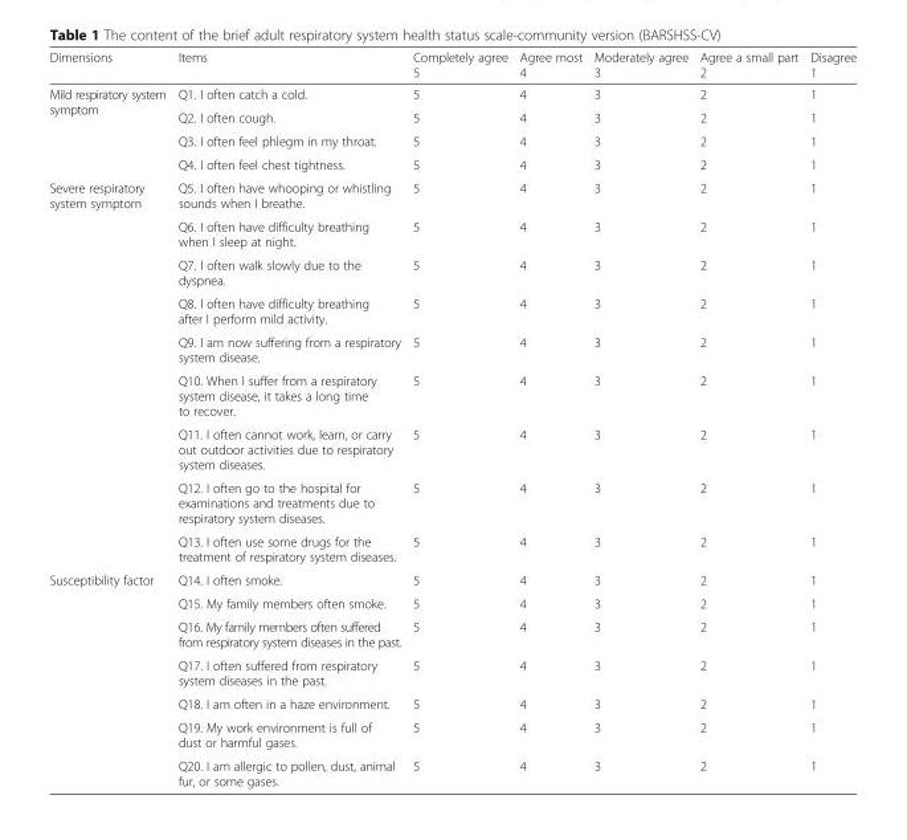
<table><thead><tr><td>Dimensions</td><td>Items</td><td>Completely agree 5</td><td>Agree most 4</td><td>Moderately agree 3</td><td>Agree a small part 2</td><td>Disagree 1</td></tr></thead><tbody><tr><td rowspan="4">Mild respiratory system symptom</td><td>Q1. I often catch a cold.</td><td>5</td><td>4</td><td>3</td><td>2</td><td>1</td></tr><tr><td>Q2. I often cough.</td><td>5</td><td>4</td><td>3</td><td>2</td><td>1</td></tr><tr><td>Q3. I often feel phlegm in my throat.</td><td>5</td><td>4</td><td>3</td><td>2</td><td>1</td></tr><tr><td>Q4. I often feel chest tightness.</td><td>5</td><td>4</td><td>3</td><td>2</td><td>1</td></tr><tr><td rowspan="9">Severe respiratory system symptom</td><td>Q5. I often have whooping or whistling sounds when I breathe.</td><td>5</td><td>4</td><td>3</td><td>2</td><td>1</td></tr><tr><td>Q6. I often have difficulty breathing when I sleep at night.</td><td>5</td><td>4</td><td>3</td><td>2</td><td>1</td></tr><tr><td>Q7. I often walk slowly due to the dyspnea.</td><td>5</td><td>4</td><td>3</td><td>2</td><td>1</td></tr><tr><td>Q8. I often have difficulty breathing after I perform mild activity.</td><td>5</td><td>4</td><td>3</td><td>2</td><td>1</td></tr><tr><td>Q9. I am now suffering from a respiratory system disease.</td><td>5</td><td>4</td><td>3</td><td>2</td><td>1</td></tr><tr><td>Q10. When I suffer from a respiratory system disease, it takes a long time to recover.</td><td>5</td><td>4</td><td>3</td><td>2</td><td>1</td></tr><tr><td>Q11. I often cannot work, learn, or carry out outdoor activities due to respiratory system diseases.</td><td>5</td><td>4</td><td>3</td><td>2</td><td>1</td></tr><tr><td>Q12. I often go to the hospital for examinations and treatments due to respiratory system diseases.</td><td>5</td><td>4</td><td>3</td><td>2</td><td>1</td></tr><tr><td>Q13. I often use some drugs for the treatment of respiratory system diseases.</td><td>5</td><td>4</td><td>3</td><td>2</td><td>1</td></tr><tr><td rowspan="7">Susceptibility factor</td><td>Q14. I often smoke.</td><td>5</td><td>4</td><td>3</td><td>2</td><td>1</td></tr><tr><td>Q15. My family members often smoke.</td><td>5</td><td>4</td><td>3</td><td>2</td><td>1</td></tr><tr><td>Q16. My family members often suffered from respiratory system diseases in the past.</td><td>5</td><td>4</td><td>3</td><td>2</td><td>1</td></tr><tr><td>Q17. I often suffered from respiratory system diseases in the past.</td><td>5</td><td>4</td><td>3</td><td>2</td><td>1</td></tr><tr><td>Q18. I am often in a haze environment.</td><td>5</td><td>4</td><td>3</td><td>2</td><td>1</td></tr><tr><td>Q19. My work environment is full of dust or harmful gases.</td><td>5</td><td>4</td><td>3</td><td>2</td><td>1</td></tr><tr><td>Q20. I am allergic to pollen, dust, animal fur, or some gases.</td><td>5</td><td>4</td><td>3</td><td>2</td><td>1</td></tr></tbody></table>